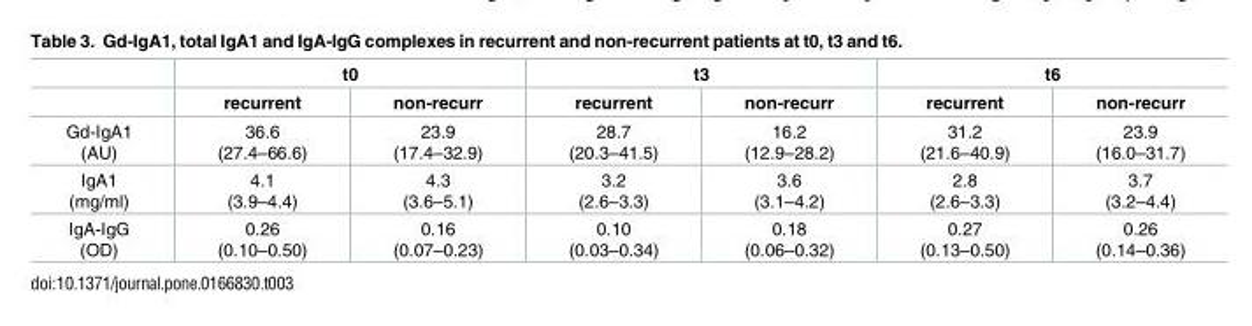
<table><thead><tr><td rowspan="2"></td><td colspan="2">t0</td><td colspan="2">t3</td><td colspan="2">t6</td></tr><tr><td>recurrent</td><td>non-recurr</td><td>recurrent</td><td>non-recurr</td><td>recurrent</td><td>non-recurr</td></tr></thead><tbody><tr><td>Gd-IgA1 (AU)</td><td>36.6 (27.4–66.6)</td><td>23.9 (17.4–32.9)</td><td>28.7 (20.3–41.5)</td><td>16.2 (12.9–28.2)</td><td>31.2 (21.6–40.9)</td><td>23.9 (16.0–31.7)</td></tr><tr><td>IgA1 (mg/ml)</td><td>4.1 (3.9–4.4)</td><td>4.3 (3.6–5.1)</td><td>3.2 (2.6–3.3)</td><td>3.6 (3.1–4.2)</td><td>2.8 (2.6–3.3)</td><td>3.7 (3.2–4.4)</td></tr><tr><td>IgA-IgG (OD)</td><td>0.26 (0.10–0.50)</td><td>0.16 (0.07–0.23)</td><td>0.10 (0.03–0.34)</td><td>0.18 (0.06–0.32)</td><td>0.27 (0.13–0.50)</td><td>0.26 (0.14–0.36)</td></tr></tbody></table>